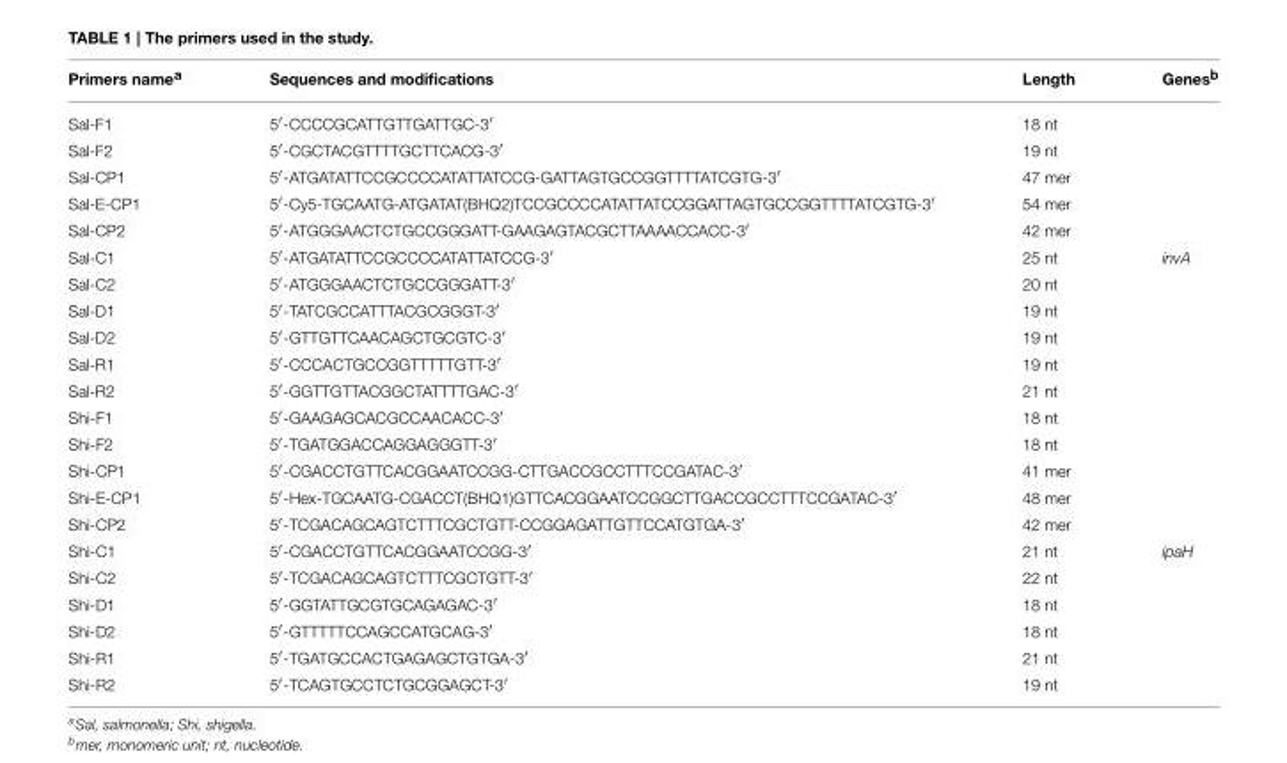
<table><thead><tr><td>Primers name<sup>a</sup></td><td>Sequences and modifications</td><td>Length</td><td>Genes<sup>b</sup></td></tr></thead><tbody><tr><td>Sal-F1</td><td>5′-CCCCGCATTGTTGATTGC-3′</td><td>18 nt</td><td></td></tr><tr><td>Sal-F2</td><td>5′-CGCTACGTTTTGCTTCACG-3′</td><td>19 nt</td><td></td></tr><tr><td>Sal-CP1</td><td>5′-ATGATATTCCGCCCCATATTATCCG-GATTAGTGCCGGTTTTATCGTG-3′</td><td>47 mer</td><td></td></tr><tr><td>Sal-E-CP1</td><td>5′-Cy5-TGCAATG-ATGATAT(BHQ2)TCCGCCCCATATTATCCGGATTAGTGCCGGTTTTATCGTG-3′</td><td>54 mer</td><td></td></tr><tr><td>Sal-CP2</td><td>5′-ATGGGAACTCTGCCGGGATT-GAAGAGTACGCTTAAAACCACC-3′</td><td>42 mer</td><td></td></tr><tr><td>Sal-C1</td><td>5′-ATGATATTCCGCCCCATATTATCCG-3′</td><td>25 nt</td><td>invA</td></tr><tr><td>Sal-C2</td><td>5′-ATGGGAACTCTGCCGGGATT-3′</td><td>20 nt</td><td></td></tr><tr><td>Sal-D1</td><td>5′-TATCGCCATTTACGCGGGT-3′</td><td>19 nt</td><td></td></tr><tr><td>Sal-D2</td><td>5′-GTTGTTCAACAGCTGCGTC-3′</td><td>19 nt</td><td></td></tr><tr><td>Sal-R1</td><td>5′-CCCACTGCCGGTTTTTGTT-3′</td><td>19 nt</td><td></td></tr><tr><td>Sal-R2</td><td>5′-GGTTGTTACGGCTATTTTGAC-3′</td><td>21 nt</td><td></td></tr><tr><td>Shi-F1</td><td>5′-GAAGAGCACGCCAACACC-3′</td><td>18 nt</td><td></td></tr><tr><td>Shi-F2</td><td>5′-TGATGGACCAGGAGGGTT-3′</td><td>18 nt</td><td></td></tr><tr><td>Shi-CP1</td><td>5′-CGACCTGTTCACGGAATCCGG-CTTGACCGCCTTTCCGATAC-3′</td><td>41 mer</td><td></td></tr><tr><td>Shi-E-CP1</td><td>5′-Hex-TGCAATG-CGACCT(BHQ1)GTTCACGGAATCCGGCTTGACCGCCTTTCCGATAC-3′</td><td>48 mer</td><td></td></tr><tr><td>Shi-CP2</td><td>5′-TCGACAGCAGTCTTTCGCTGTT-CCGGAGATTGTTCCATGTGA-3′</td><td>42 mer</td><td></td></tr><tr><td>Shi-C1</td><td>5′-CGACCTGTTCACGGAATCCGG-3′</td><td>21 nt</td><td>ipaH</td></tr><tr><td>Shi-C2</td><td>5′-TCGACAGCAGTCTTTCGCTGTT-3′</td><td>22 nt</td><td></td></tr><tr><td>Shi-D1</td><td>5′-GGTATTGCGTGCAGAGAC-3′</td><td>18 nt</td><td></td></tr><tr><td>Shi-D2</td><td>5′-GTTTTTCCAGCCATGCAG-3′</td><td>18 nt</td><td></td></tr><tr><td>Shi-R1</td><td>5′-TGATGCCACTGAGAGCTGTGA-3′</td><td>21 nt</td><td></td></tr><tr><td>Shi-R2</td><td>5′-TCAGTGCCTCTGCGGAGCT-3′</td><td>19 nt</td><td></td></tr></tbody></table>